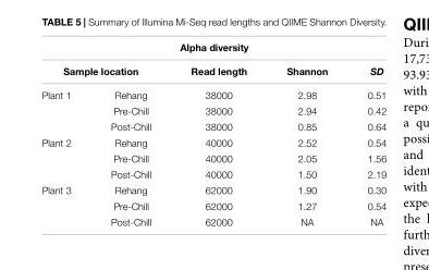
<table><thead><tr><td colspan="5">Alpha diversity</td></tr><tr><td colspan="2">Sample location</td><td rowspan="2">Read length 38000</td><td rowspan="2">Shannon 2.98</td><td rowspan="2">SD 0.51</td></tr><tr><td>Plant 1</td><td>Rehang</td></tr></thead><tbody><tr><td></td><td>Pre-Chill</td><td>38000</td><td>2.94</td><td>0.42</td></tr><tr><td></td><td>Post-Chill</td><td>38000</td><td>0.85</td><td>0.64</td></tr><tr><td rowspan="3">Plant 2</td><td>Rehang</td><td>40000</td><td>2.52</td><td>0.54</td></tr><tr><td>Pre-Chill</td><td>40000</td><td>2.05</td><td>1.56</td></tr><tr><td>Post-Chill</td><td>40000</td><td>1.50</td><td>2.19</td></tr><tr><td rowspan="3">Plant 3</td><td>Rehang</td><td>62000</td><td>1.90</td><td>0.30</td></tr><tr><td>Pre-Chill</td><td>62000</td><td>1.27</td><td>0.54</td></tr><tr><td>Post-Chill</td><td>62000</td><td>NA</td><td>NA</td></tr></tbody></table>